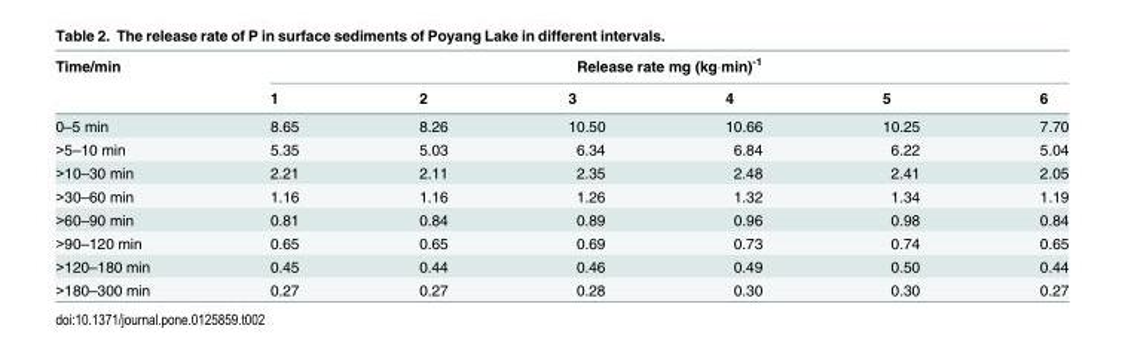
<table><thead><tr><td rowspan="2">Time/min</td><td colspan="6">Release rate mg (kg·min)<sup>-1</sup></td></tr><tr><td>1</td><td>2</td><td>3</td><td>4</td><td>5</td><td>6</td></tr></thead><tbody><tr><td>0–5 min</td><td>8.65</td><td>8.26</td><td>10.50</td><td>10.66</td><td>10.25</td><td>7.70</td></tr><tr><td>&gt;5–10 min</td><td>5.35</td><td>5.03</td><td>6.34</td><td>6.84</td><td>6.22</td><td>5.04</td></tr><tr><td>&gt;10–30 min</td><td>2.21</td><td>2.11</td><td>2.35</td><td>2.48</td><td>2.41</td><td>2.05</td></tr><tr><td>&gt;30–60 min</td><td>1.16</td><td>1.16</td><td>1.26</td><td>1.32</td><td>1.34</td><td>1.19</td></tr><tr><td>&gt;60–90 min</td><td>0.81</td><td>0.84</td><td>0.89</td><td>0.96</td><td>0.98</td><td>0.84</td></tr><tr><td>&gt;90–120 min</td><td>0.65</td><td>0.65</td><td>0.69</td><td>0.73</td><td>0.74</td><td>0.65</td></tr><tr><td>&gt;120–180 min</td><td>0.45</td><td>0.44</td><td>0.46</td><td>0.49</td><td>0.50</td><td>0.44</td></tr><tr><td>&gt;180–300 min</td><td>0.27</td><td>0.27</td><td>0.28</td><td>0.30</td><td>0.30</td><td>0.27</td></tr></tbody></table>